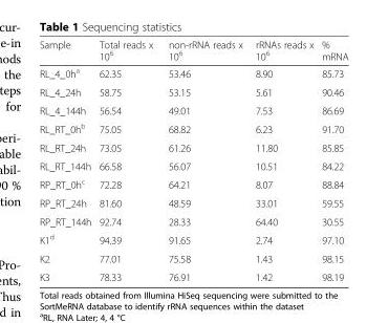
<table><thead><tr><td>Sample</td><td>Total reads x 10<sup>6</sup></td><td>non-rRNA reads x 10<sup>6</sup></td><td>rRNAs reads x 10<sup>6</sup></td><td>% mRNA</td></tr></thead><tbody><tr><td>RL_4_0h<sup>a</sup></td><td>62.35</td><td>53.46</td><td>8.90</td><td>85.73</td></tr><tr><td>RL_4_24h</td><td>58.75</td><td>53.15</td><td>5.61</td><td>90.46</td></tr><tr><td>RL_4_144h</td><td>56.54</td><td>49.01</td><td>7.53</td><td>86.69</td></tr><tr><td>RL_RT_0h<sup>b</sup></td><td>75.05</td><td>68.82</td><td>6.23</td><td>91.70</td></tr><tr><td>RL_RT_24h</td><td>73.05</td><td>61.26</td><td>11.80</td><td>85.85</td></tr><tr><td>RL_RT_144h</td><td>66.58</td><td>56.07</td><td>10.51</td><td>84.22</td></tr><tr><td>RP_RT_0h<sup>c</sup></td><td>72.28</td><td>64.21</td><td>8.07</td><td>88.84</td></tr><tr><td>RP_RT_24h</td><td>81.60</td><td>48.59</td><td>33.01</td><td>59.55</td></tr><tr><td>RP_RT_144h</td><td>92.74</td><td>28.33</td><td>64.40</td><td>30.55</td></tr><tr><td>K1<sup>d</sup></td><td>94.39</td><td>91.65</td><td>2.74</td><td>97.10</td></tr><tr><td>K2</td><td>77.01</td><td>75.58</td><td>1.43</td><td>98.15</td></tr><tr><td>K3</td><td>78.33</td><td>76.91</td><td>1.42</td><td>98.19</td></tr></tbody></table>